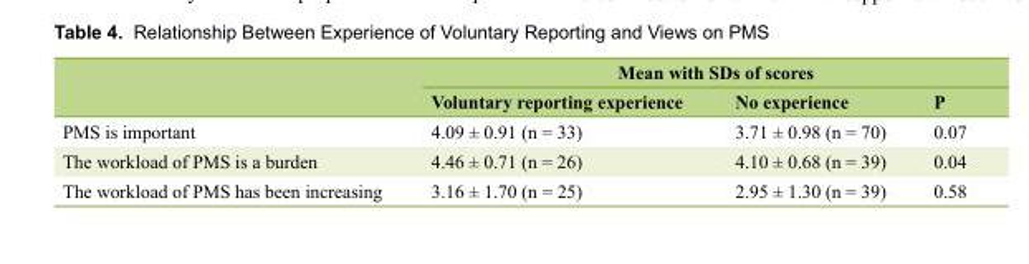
<table><thead><tr><td rowspan="2"></td><td colspan="3">Mean with SDs of scores</td></tr><tr><td>Voluntary reporting experience</td><td>No experience</td><td>P</td></tr></thead><tbody><tr><td>PMS is important</td><td>4.09 ± 0.91 (n = 33)</td><td>3.71 ± 0.98 (n = 70)</td><td>0.07</td></tr><tr><td>The workload of PMS is a burden</td><td>4.46 ± 0.71 (n = 26)</td><td>4.10 ± 0.68 (n = 39)</td><td>0.04</td></tr><tr><td>The workload of PMS has been increasing</td><td>3.16 ± 1.70 (n = 25)</td><td>2.95 ± 1.30 (n = 39)</td><td>0.58</td></tr></tbody></table>